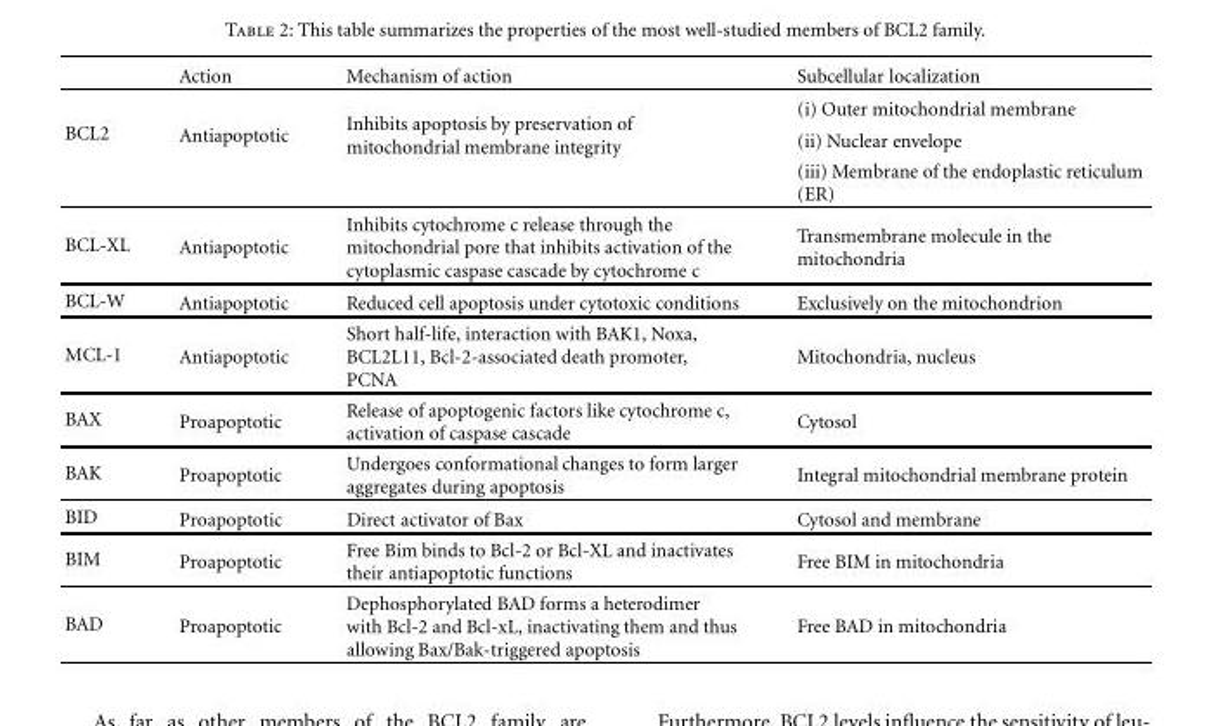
<table><thead><tr><td></td><td>Action</td><td>Mechanism of action</td><td>Subcellular localization</td></tr></thead><tbody><tr><td rowspan="3">BCL2</td><td rowspan="3">Antiapoptotic</td><td rowspan="3">Inhibits apoptosis by preservation of mitochondrial membrane integrity</td><td>(i) Outer mitochondrial membrane</td></tr><tr><td>(ii) Nuclear envelope</td></tr><tr><td>(iii) Membrane of the endoplastic reticulum (ER)</td></tr><tr><td>BCL-XL</td><td>Antiapoptotic</td><td>Inhibits cytochrome c release through the mitochondrial pore that inhibits activation of the cytoplasmic caspase cascade by cytochrome c</td><td>Transmembrane molecule in the mitochondria</td></tr><tr><td>BCL-W</td><td>Antiapoptotic</td><td>Reduced cell apoptosis under cytotoxic conditions</td><td>Exclusively on the mitochondrion</td></tr><tr><td>MCL-1</td><td>Antiapoptotic</td><td>Short half-life, interaction with BAK1, Noxa, BCL2L11, Bcl-2-associated death promoter, PCNA</td><td>Mitochondria, nucleus</td></tr><tr><td>BAX</td><td>Proapoptotic</td><td>Release of apoptogenic factors like cytochrome c, activation of caspase cascade</td><td>Cytosol</td></tr><tr><td>BAK</td><td>Proapoptotic</td><td>Undergoes conformational changes to form larger aggregates during apoptosis</td><td>Integral mitochondrial membrane protein</td></tr><tr><td>BID</td><td>Proapoptotic</td><td>Direct activator of Bax</td><td>Cytosol and membrane</td></tr><tr><td>BIM</td><td>Proapoptotic</td><td>Free Bim binds to Bcl-2 or Bcl-XL and inactivates their antiapoptotic functions</td><td>Free BIM in mitochondria</td></tr><tr><td>BAD</td><td>Proapoptotic</td><td>Dephosphorylated BAD forms a heterodimer with Bcl-2 and Bcl-xL, inactivating them and thus allowing Bax/Bak-triggered apoptosis</td><td>Free BAD in mitochondria</td></tr></tbody></table>